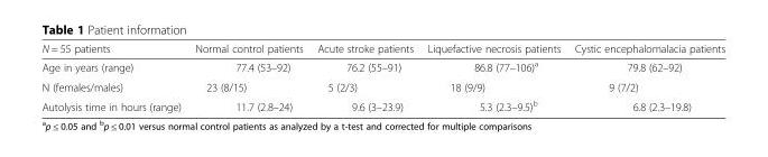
<table><thead><tr><td>N = 55 patients</td><td>Normal control patients</td><td>Acute stroke patients</td><td>Liquefactive necrosis patients</td><td>Cystic encephalomalacia patients</td></tr></thead><tbody><tr><td>Age in years (range)</td><td>77.4 (53–92)</td><td>76.2 (55–91)</td><td>86.8 (77–106)<sup>a</sup></td><td>79.8 (62–92)</td></tr><tr><td>N (females/males)</td><td>23 (8/15)</td><td>5 (2/3)</td><td>18 (9/9)</td><td>9 (7/2)</td></tr><tr><td>Autolysis time in hours (range)</td><td>11.7 (2.8–24)</td><td>9.6 (3–23.9)</td><td>5.3 (2.3–9.5)<sup>b</sup></td><td>6.8 (2.3–19.8)</td></tr></tbody></table>